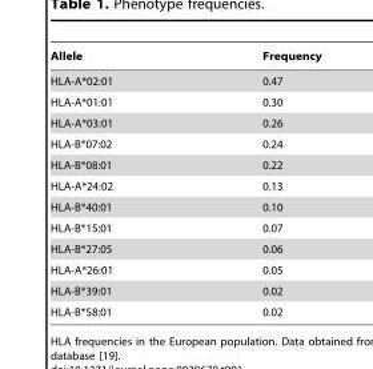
<table><thead><tr><td>Allele</td><td>Frequency</td></tr></thead><tbody><tr><td>HLA-A*02:01</td><td>0.47</td></tr><tr><td>HLA-A*01:01</td><td>0.30</td></tr><tr><td>HLA-A*03:01</td><td>0.26</td></tr><tr><td>HLA-B*07:02</td><td>0.24</td></tr><tr><td>HLA-B*08:01</td><td>0.22</td></tr><tr><td>HLA-A*24:02</td><td>0.13</td></tr><tr><td>HLA-B*40:01</td><td>0.10</td></tr><tr><td>HLA-B*15:01</td><td>0.07</td></tr><tr><td>HLA-B*27:05</td><td>0.06</td></tr><tr><td>HLA-A*26:01</td><td>0.05</td></tr><tr><td>HLA-B*39:01</td><td>0.02</td></tr><tr><td>HLA-B*58:01</td><td>0.02</td></tr></tbody></table>